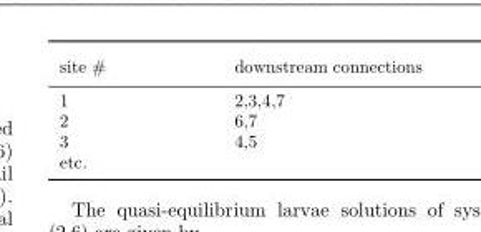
<table><thead><tr><td>site #</td><td>downstream connections</td></tr></thead><tbody><tr><td>1</td><td>2,3,4,7</td></tr><tr><td>2</td><td>6,7</td></tr><tr><td>3</td><td>4,5</td></tr><tr><td>etc.</td><td></td></tr></tbody></table>